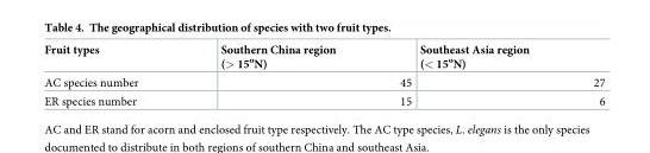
<table><thead><tr><td>Fruit types</td><td>Southern China region (&gt; 15<sup>o</sup>N)</td><td>Southeast Asia region (&lt; 15<sup>o</sup>N)</td></tr></thead><tbody><tr><td>AC species number</td><td>45</td><td>27</td></tr><tr><td>ER species number</td><td>15</td><td>6</td></tr></tbody></table>